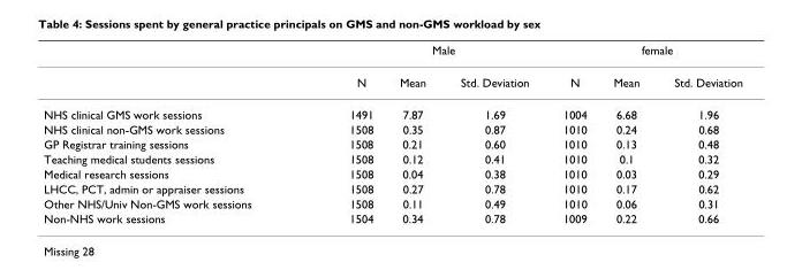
<table><thead><tr><td rowspan="2"></td><td colspan="3">Male</td><td colspan="3">female</td></tr><tr><td>N</td><td>Mean</td><td>Std. Deviation</td><td>N</td><td>Mean</td><td>Std. Deviation</td></tr></thead><tbody><tr><td>NHS clinical GMS work sessions</td><td>1491</td><td>7.87</td><td>1.69</td><td>1004</td><td>6.68</td><td>1.96</td></tr><tr><td>NHS clinical non-GMS work sessions</td><td>1508</td><td>0.35</td><td>0.87</td><td>1010</td><td>0.24</td><td>0.68</td></tr><tr><td>GP Registrar training sessions</td><td>1508</td><td>0.21</td><td>0.60</td><td>1010</td><td>0.13</td><td>0.48</td></tr><tr><td>Teaching medical students sessions</td><td>1508</td><td>0.12</td><td>0.41</td><td>1010</td><td>0.1</td><td>0.32</td></tr><tr><td>Medical research sessions</td><td>1508</td><td>0.04</td><td>0.38</td><td>1010</td><td>0.03</td><td>0.29</td></tr><tr><td>LHCC, PCT, admin or appraiser sessions</td><td>1508</td><td>0.27</td><td>0.78</td><td>1010</td><td>0.17</td><td>0.62</td></tr><tr><td>Other NHS/Univ Non-GMS work sessions</td><td>1508</td><td>0.11</td><td>0.49</td><td>1010</td><td>0.06</td><td>0.31</td></tr><tr><td>Non-NHS work sessions</td><td>1504</td><td>0.34</td><td>0.78</td><td>1009</td><td>0.22</td><td>0.66</td></tr></tbody></table>